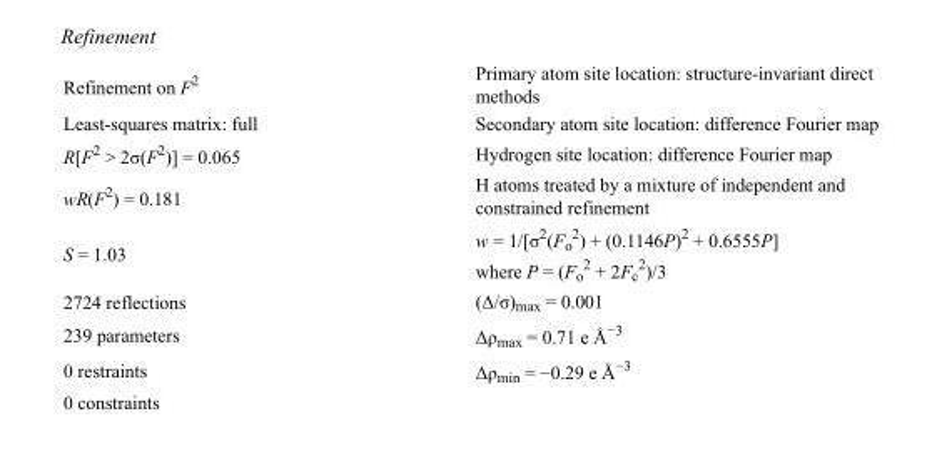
<table><tbody><tr><td>Refinement on F<sup>2</sup></td><td>Primary atom site location: structure-invariant direct methods</td></tr><tr><td>Least-squares matrix: full</td><td>Secondary atom site location: difference Fourier map</td></tr><tr><td>R[F<sup>2</sup> &gt; 2σ(F<sup>2</sup>)] = 0.065</td><td>Hydrogen site location: difference Fourier map</td></tr><tr><td>wR(F<sup>2</sup>) = 0.181</td><td>H atoms treated by a mixture of independent and constrained refinement</td></tr><tr><td>S = 1.03</td><td>w = 1/[σ<sup>2</sup>(F<sub>o</sub> <sup>2</sup>) + (0.1146P)<sup>2</sup> + 0.6555P] where P = (F<sub>o</sub> <sup>2</sup> + 2F<sub>c</sub> <sup>2</sup>)/3</td></tr><tr><td>2724 reflections</td><td>(Δ/σ)<sub>max</sub> = 0.001</td></tr><tr><td>239 parameters</td><td>Δρ<sub>max</sub> = 0.71 e Å<sup>−3</sup></td></tr><tr><td>0 restraints</td><td>Δρ<sub>min</sub> = −0.29 e Å<sup>−3</sup></td></tr><tr><td>0 constraints</td><td></td></tr></tbody></table>